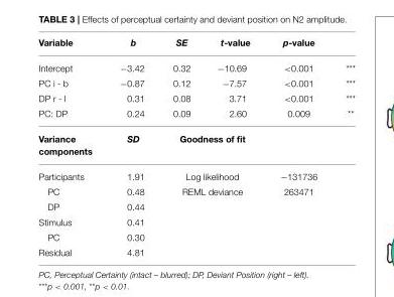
<table><thead><tr><td>Variable</td><td>b</td><td>SE</td><td>t-value</td><td>p-value</td><td></td></tr></thead><tbody><tr><td>Intercept</td><td>−3.42</td><td>0.32</td><td>−10.69</td><td>&lt;0.001</td><td>***</td></tr><tr><td>PC i - b</td><td>−0.87</td><td>0.12</td><td>−7.57</td><td>&lt;0.001</td><td>***</td></tr><tr><td>DP r - l</td><td>0.31</td><td>0.08</td><td>3.71</td><td>&lt;0.001</td><td>***</td></tr><tr><td>PC: DP</td><td>0.24</td><td>0.09</td><td>2.60</td><td>0.009</td><td>**</td></tr><tr><td>Variance components</td><td>SD</td><td colspan="2">Goodness of fit</td><td></td><td></td></tr><tr><td>Participants</td><td>1.91</td><td colspan="2">Log likelihood</td><td>−131736</td><td></td></tr><tr><td>PC</td><td>0.48</td><td colspan="2">REML deviance</td><td>263471</td><td></td></tr><tr><td>DP</td><td>0.44</td><td></td><td></td><td></td><td></td></tr><tr><td>Stimulus</td><td>0.41</td><td></td><td></td><td></td><td></td></tr><tr><td>PC</td><td>0.30</td><td></td><td></td><td></td><td></td></tr><tr><td>Residual</td><td>4.81</td><td></td><td></td><td></td><td></td></tr></tbody></table>